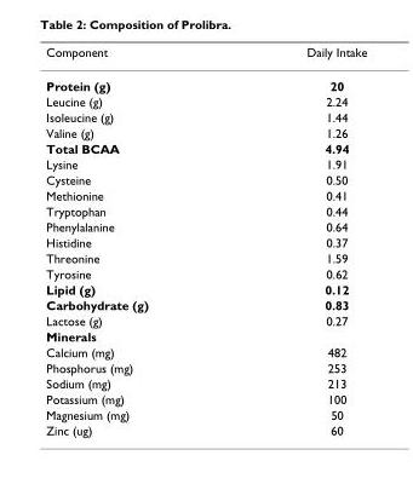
<table><thead><tr><td>Component</td><td>Daily Intake</td></tr></thead><tbody><tr><td>Protein (g)</td><td>20</td></tr><tr><td>Leucine (g)</td><td>2.24</td></tr><tr><td>Isoleucine (g)</td><td>1.44</td></tr><tr><td>Valine (g)</td><td>1.26</td></tr><tr><td>Total BCAA</td><td>4.94</td></tr><tr><td>Lysine</td><td>1.91</td></tr><tr><td>Cysteine</td><td>0.50</td></tr><tr><td>Methionine</td><td>0.41</td></tr><tr><td>Tryptophan</td><td>0.44</td></tr><tr><td>Phenylalanine</td><td>0.64</td></tr><tr><td>Histidine</td><td>0.37</td></tr><tr><td>Threonine</td><td>1.59</td></tr><tr><td>Tyrosine</td><td>0.62</td></tr><tr><td>Lipid (g)</td><td>0.12</td></tr><tr><td>Carbohydrate (g)</td><td>0.83</td></tr><tr><td>Lactose (g)</td><td>0.27</td></tr><tr><td colspan="2">Minerals</td></tr><tr><td>Calcium (mg)</td><td>482</td></tr><tr><td>Phosphorus (mg)</td><td>253</td></tr><tr><td>Sodium (mg)</td><td>213</td></tr><tr><td>Potassium (mg)</td><td>100</td></tr><tr><td>Magnesium (mg)</td><td>50</td></tr><tr><td>Zinc (ug)</td><td>60</td></tr></tbody></table>